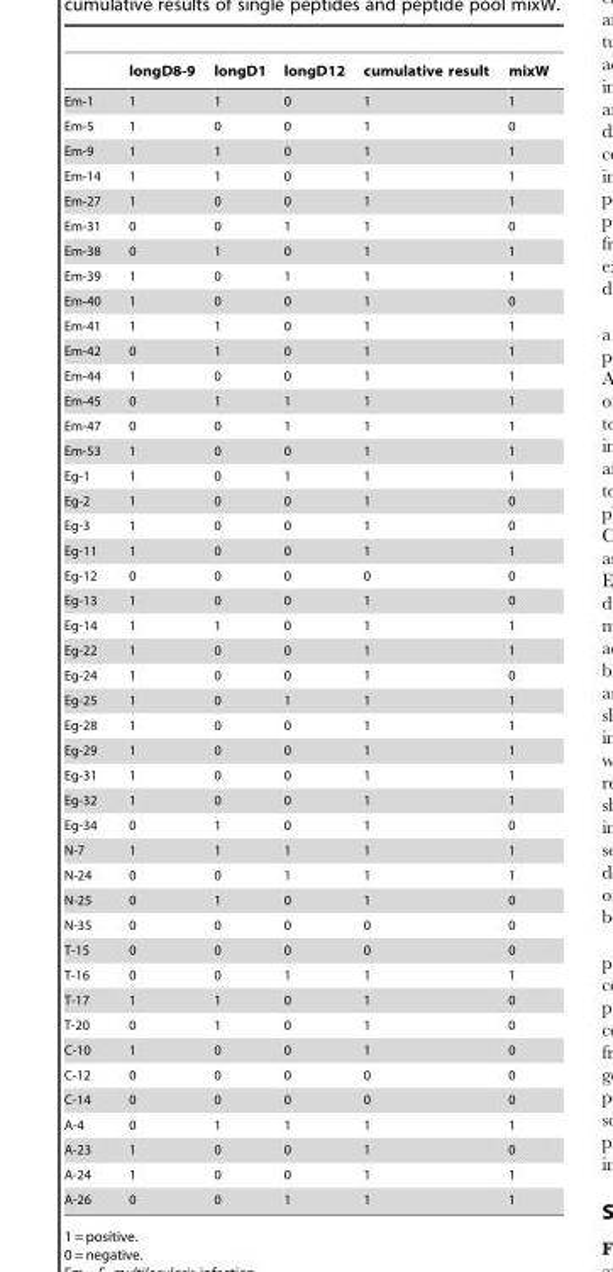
<table><thead><tr><td></td><td>longD8-9</td><td>longD1</td><td>longD12</td><td>cumulative result</td><td>mixW</td></tr></thead><tbody><tr><td>Em-1</td><td>1</td><td>1</td><td>0</td><td>1</td><td>1</td></tr><tr><td>Em-5</td><td>1</td><td>0</td><td>0</td><td>1</td><td>0</td></tr><tr><td>Em-9</td><td>1</td><td>1</td><td>0</td><td>1</td><td>1</td></tr><tr><td>Em-14</td><td>1</td><td>1</td><td>0</td><td>1</td><td>1</td></tr><tr><td>Em-27</td><td>1</td><td>0</td><td>0</td><td>1</td><td>1</td></tr><tr><td>Em-31</td><td>0</td><td>0</td><td>1</td><td>1</td><td>0</td></tr><tr><td>Em-38</td><td>0</td><td>1</td><td>0</td><td>1</td><td>1</td></tr><tr><td>Em-39</td><td>1</td><td>0</td><td>1</td><td>1</td><td>1</td></tr><tr><td>Em-40</td><td>1</td><td>0</td><td>0</td><td>1</td><td>0</td></tr><tr><td>Em-41</td><td>1</td><td>1</td><td>0</td><td>1</td><td>1</td></tr><tr><td>Em-42</td><td>0</td><td>1</td><td>0</td><td>1</td><td>1</td></tr><tr><td>Em-44</td><td>1</td><td>0</td><td>0</td><td>1</td><td>1</td></tr><tr><td>Em-45</td><td>0</td><td>1</td><td>1</td><td>1</td><td>1</td></tr><tr><td>Em-47</td><td>0</td><td>0</td><td>1</td><td>1</td><td>1</td></tr><tr><td>Em-53</td><td>1</td><td>0</td><td>0</td><td>1</td><td>1</td></tr><tr><td>Eg-1</td><td>1</td><td>0</td><td>1</td><td>1</td><td>1</td></tr><tr><td>Eg-2</td><td>1</td><td>0</td><td>0</td><td>1</td><td>0</td></tr><tr><td>Eg-3</td><td>1</td><td>0</td><td>0</td><td>1</td><td>0</td></tr><tr><td>Eg-11</td><td>1</td><td>0</td><td>0</td><td>1</td><td>1</td></tr><tr><td>Eg-12</td><td>0</td><td>0</td><td>0</td><td>0</td><td>0</td></tr><tr><td>Eg-13</td><td>1</td><td>0</td><td>0</td><td>1</td><td>0</td></tr><tr><td>Eg-14</td><td>1</td><td>1</td><td>0</td><td>1</td><td>1</td></tr><tr><td>Eg-22</td><td>1</td><td>0</td><td>0</td><td>1</td><td>1</td></tr><tr><td>Eg-24</td><td>1</td><td>0</td><td>0</td><td>1</td><td>0</td></tr><tr><td>Eg-25</td><td>1</td><td>0</td><td>1</td><td>1</td><td>1</td></tr><tr><td>Eg-28</td><td>1</td><td>0</td><td>0</td><td>1</td><td>1</td></tr><tr><td>Eg-29</td><td>1</td><td>0</td><td>0</td><td>1</td><td>1</td></tr><tr><td>Eg-31</td><td>1</td><td>0</td><td>0</td><td>1</td><td>1</td></tr><tr><td>Eg-32</td><td>1</td><td>0</td><td>0</td><td>1</td><td>1</td></tr><tr><td>Eg-34</td><td>0</td><td>1</td><td>0</td><td>1</td><td>0</td></tr><tr><td>N-7</td><td>1</td><td>1</td><td>1</td><td>1</td><td>1</td></tr><tr><td>N-24</td><td>0</td><td>0</td><td>1</td><td>1</td><td>1</td></tr><tr><td>N-25</td><td>0</td><td>1</td><td>0</td><td>1</td><td>0</td></tr><tr><td>N-35</td><td>0</td><td>0</td><td>0</td><td>0</td><td>0</td></tr><tr><td>T-15</td><td>0</td><td>0</td><td>0</td><td>0</td><td>0</td></tr><tr><td>T-16</td><td>0</td><td>0</td><td>1</td><td>1</td><td>1</td></tr><tr><td>T-17</td><td>1</td><td>1</td><td>0</td><td>1</td><td>0</td></tr><tr><td>T-20</td><td>0</td><td>1</td><td>0</td><td>1</td><td>0</td></tr><tr><td>C-10</td><td>1</td><td>0</td><td>0</td><td>1</td><td>0</td></tr><tr><td>C-12</td><td>0</td><td>0</td><td>0</td><td>0</td><td>0</td></tr><tr><td>C-14</td><td>0</td><td>0</td><td>0</td><td>0</td><td>0</td></tr><tr><td>A-4</td><td>0</td><td>1</td><td>1</td><td>1</td><td>1</td></tr><tr><td>A-23</td><td>1</td><td>0</td><td>0</td><td>1</td><td>0</td></tr><tr><td>A-24</td><td>1</td><td>0</td><td>0</td><td>1</td><td>1</td></tr><tr><td>A-26</td><td>0</td><td>0</td><td>1</td><td>1</td><td>1</td></tr></tbody></table>